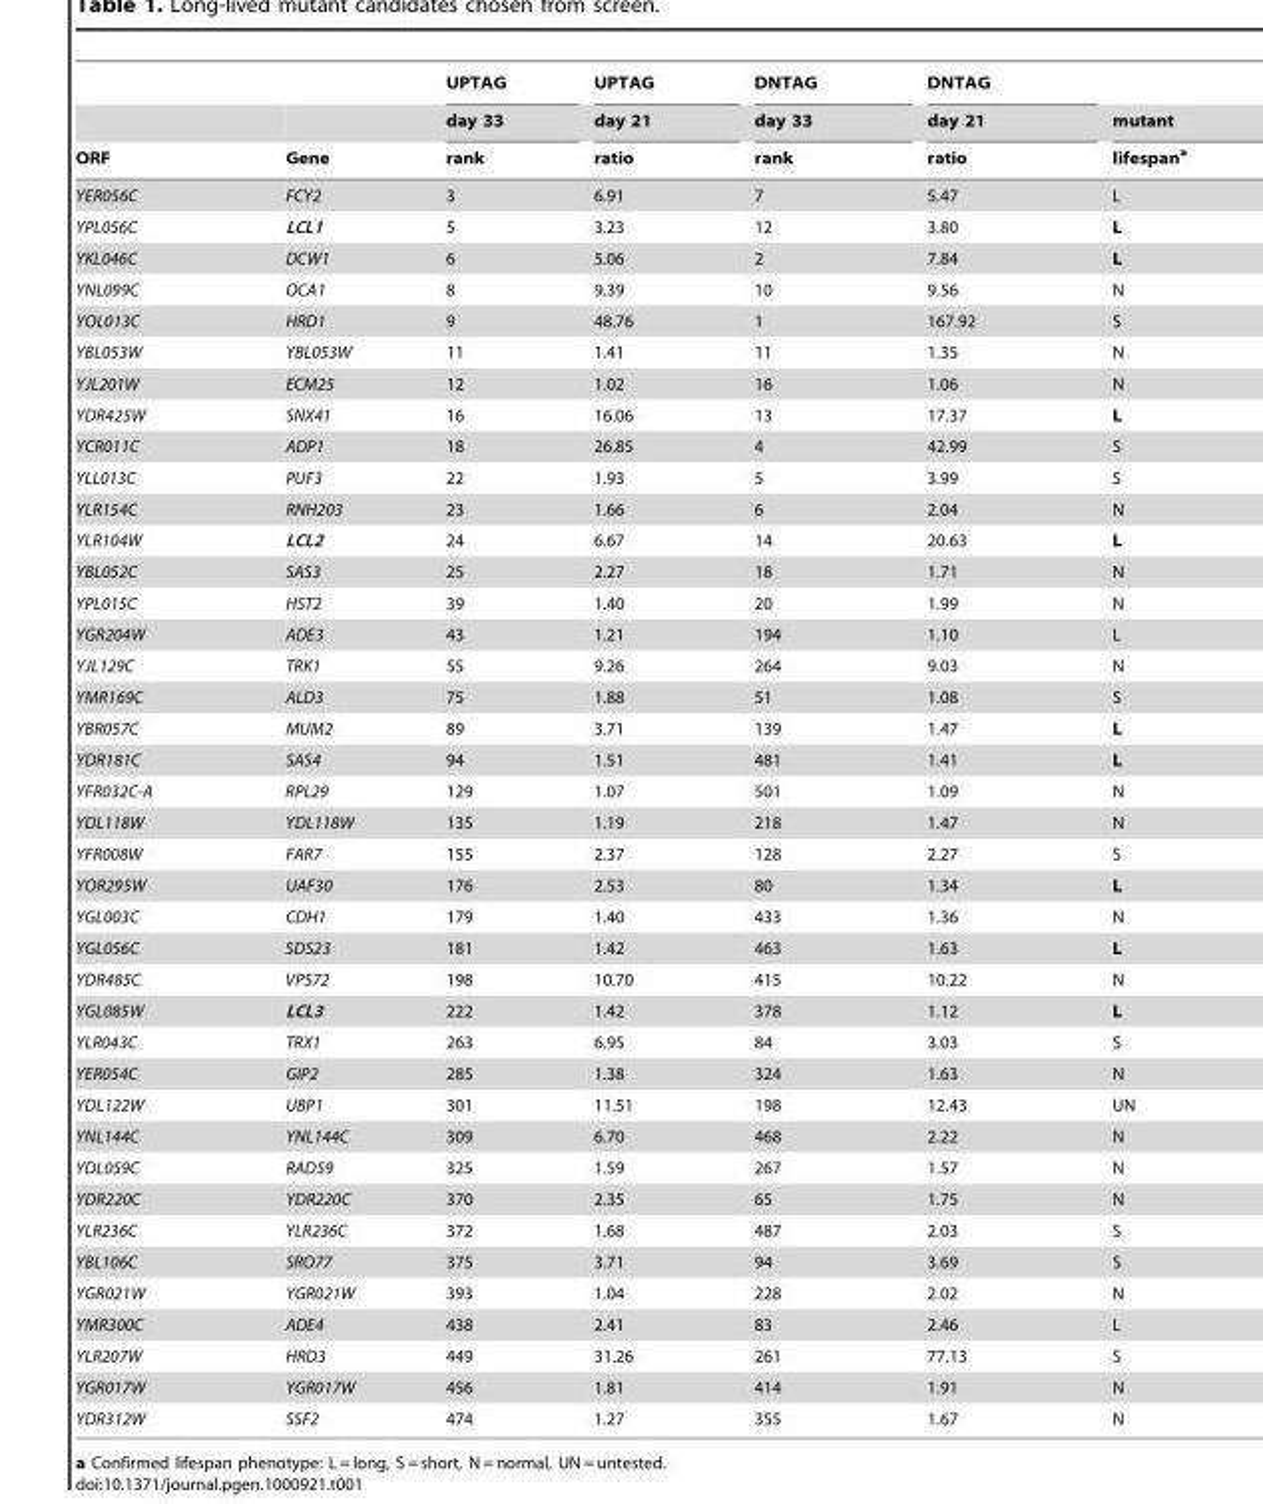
<table><thead><tr><td rowspan="3">ORF</td><td rowspan="3">Gene</td><td rowspan="3">UPTAG day 33 rank</td><td rowspan="3">UPTAG day 21 ratio</td><td rowspan="3">DNTAG day 33 rank</td><td rowspan="3">DNTAG day 21 ratio</td><td rowspan="3">mutant lifespan<sup>a</sup></td></tr><tr></tr><tr></tr></thead><tbody><tr><td>YER056C</td><td>FCY2</td><td>3</td><td>6.91</td><td>7</td><td>5.47</td><td>L</td></tr><tr><td>YPL056C</td><td>LCL1</td><td>5</td><td>3.23</td><td>12</td><td>3.80</td><td>L</td></tr><tr><td>YKL046C</td><td>DCW1</td><td>6</td><td>5.06</td><td>2</td><td>7.84</td><td>L</td></tr><tr><td>YNL099C</td><td>OCA1</td><td>8</td><td>9.39</td><td>10</td><td>9.56</td><td>N</td></tr><tr><td>YOL013C</td><td>HRD1</td><td>9</td><td>48.76</td><td>1</td><td>167.92</td><td>S</td></tr><tr><td>YBL053W</td><td>YBL053W</td><td>11</td><td>1.41</td><td>11</td><td>1.35</td><td>N</td></tr><tr><td>YJL201W</td><td>ECM25</td><td>12</td><td>1.02</td><td>16</td><td>1.06</td><td>N</td></tr><tr><td>YDR425W</td><td>SNX41</td><td>16</td><td>16.06</td><td>13</td><td>17.37</td><td>L</td></tr><tr><td>YCR011C</td><td>ADP1</td><td>18</td><td>26.85</td><td>4</td><td>42.99</td><td>S</td></tr><tr><td>YLL013C</td><td>PUF3</td><td>22</td><td>1.93</td><td>5</td><td>3.99</td><td>S</td></tr><tr><td>YLR154C</td><td>RNH203</td><td>23</td><td>1.66</td><td>6</td><td>2.04</td><td>N</td></tr><tr><td>YLR104W</td><td>LCL2</td><td>24</td><td>6.67</td><td>14</td><td>20.63</td><td>L</td></tr><tr><td>YBL052C</td><td>SAS3</td><td>25</td><td>2.27</td><td>18</td><td>1.71</td><td>N</td></tr><tr><td>YPL015C</td><td>HST2</td><td>39</td><td>1.40</td><td>20</td><td>1.99</td><td>N</td></tr><tr><td>YGR204W</td><td>ADE3</td><td>43</td><td>1.21</td><td>194</td><td>1.10</td><td>L</td></tr><tr><td>YJL129C</td><td>TRK1</td><td>55</td><td>9.26</td><td>264</td><td>9.03</td><td>N</td></tr><tr><td>YMR169C</td><td>ALD3</td><td>75</td><td>1.88</td><td>51</td><td>1.08</td><td>S</td></tr><tr><td>YBR057C</td><td>MUM2</td><td>89</td><td>3.71</td><td>139</td><td>1.47</td><td>L</td></tr><tr><td>YDR181C</td><td>SAS4</td><td>94</td><td>1.51</td><td>481</td><td>1.41</td><td>L</td></tr><tr><td>YFR032C-A</td><td>RPL29</td><td>129</td><td>1.07</td><td>501</td><td>1.09</td><td>N</td></tr><tr><td>YDL118W</td><td>YDL118W</td><td>135</td><td>1.19</td><td>218</td><td>1.47</td><td>N</td></tr><tr><td>YFR008W</td><td>FAR7</td><td>155</td><td>2.37</td><td>128</td><td>2.27</td><td>S</td></tr><tr><td>YOR295W</td><td>UAF30</td><td>176</td><td>2.53</td><td>80</td><td>1.34</td><td>L</td></tr><tr><td>YGL003C</td><td>CDH1</td><td>179</td><td>1.40</td><td>433</td><td>1.36</td><td>N</td></tr><tr><td>YGL056C</td><td>SDS23</td><td>181</td><td>1.42</td><td>463</td><td>1.63</td><td>L</td></tr><tr><td>YDR485C</td><td>VPS72</td><td>198</td><td>10.70</td><td>415</td><td>10.22</td><td>N</td></tr><tr><td>YGL085W</td><td>LCL3</td><td>222</td><td>1.42</td><td>378</td><td>1.12</td><td>L</td></tr><tr><td>YLR043C</td><td>TRX1</td><td>263</td><td>6.95</td><td>84</td><td>3.03</td><td>S</td></tr><tr><td>YER054C</td><td>GIP2</td><td>285</td><td>1.38</td><td>324</td><td>1.63</td><td>N</td></tr><tr><td>YDL122W</td><td>UBP1</td><td>301</td><td>11.51</td><td>198</td><td>12.43</td><td>UN</td></tr><tr><td>YNL144C</td><td>YNL144C</td><td>309</td><td>6.70</td><td>468</td><td>2.22</td><td>N</td></tr><tr><td>YDL059C</td><td>RAD59</td><td>325</td><td>1.59</td><td>267</td><td>1.57</td><td>N</td></tr><tr><td>YDR220C</td><td>YDR220C</td><td>370</td><td>2.35</td><td>65</td><td>1.75</td><td>N</td></tr><tr><td>YLR236C</td><td>YLR236C</td><td>372</td><td>1.68</td><td>487</td><td>2.03</td><td>S</td></tr><tr><td>YBL106C</td><td>SRO77</td><td>375</td><td>3.71</td><td>94</td><td>3.69</td><td>S</td></tr><tr><td>YGR021W</td><td>YGR021W</td><td>393</td><td>1.04</td><td>228</td><td>2.02</td><td>N</td></tr><tr><td>YMR300C</td><td>ADE4</td><td>438</td><td>2.41</td><td>83</td><td>2.46</td><td>L</td></tr><tr><td>YLR207W</td><td>HRD3</td><td>449</td><td>31.26</td><td>261</td><td>77.13</td><td>S</td></tr><tr><td>YGR017W</td><td>YGR017W</td><td>456</td><td>1.81</td><td>414</td><td>1.91</td><td>N</td></tr><tr><td>YDR312W</td><td>SSF2</td><td>474</td><td>1.27</td><td>355</td><td>1.67</td><td>N</td></tr></tbody></table>